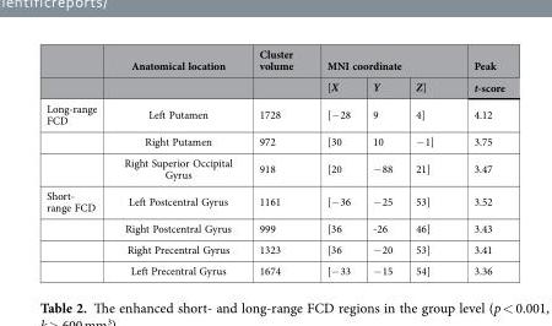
<table><thead><tr><td rowspan="2"></td><td rowspan="2">Anatomical location</td><td rowspan="2">Cluster volume</td><td colspan="3">MNI coordinate</td><td rowspan="2">Peak t-score</td></tr><tr><td>[X</td><td>Y</td><td>Z]</td></tr></thead><tbody><tr><td rowspan="3">Long-range FCD</td><td>Left Putamen</td><td>1728</td><td>[− 28</td><td>9</td><td>4]</td><td>4.12</td></tr><tr><td>Right Putamen</td><td>972</td><td>[30</td><td>10</td><td>− 1]</td><td>3.75</td></tr><tr><td>Right Superior Occipital Gyrus</td><td>918</td><td>[20</td><td>− 88</td><td>21]</td><td>3.47</td></tr><tr><td rowspan="4">Short- range FCD</td><td>Left Postcentral Gyrus</td><td>1161</td><td>[− 36</td><td>− 25</td><td>53]</td><td>3.52</td></tr><tr><td>Right Postcentral Gyrus</td><td>999</td><td>[36</td><td>-26</td><td>46]</td><td>3.43</td></tr><tr><td>Right Precentral Gyrus</td><td>1323</td><td>[36</td><td>− 20</td><td>53]</td><td>3.41</td></tr><tr><td>Left Precentral Gyrus</td><td>1674</td><td>[− 33</td><td>− 15</td><td>54]</td><td>3.36</td></tr></tbody></table>